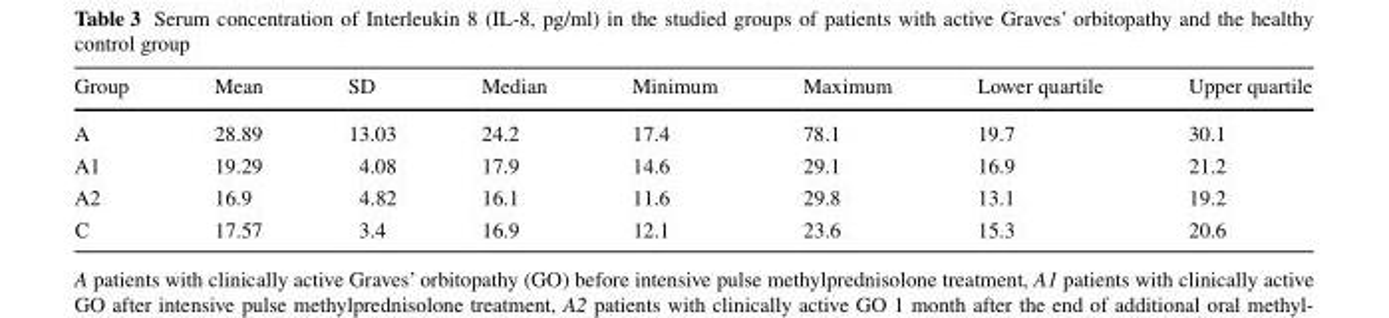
<table><thead><tr><td>Group</td><td>Mean</td><td>SD</td><td>Median</td><td>Minimum</td><td>Maximum</td><td>Lower quartile</td><td>Upper quartile</td></tr></thead><tbody><tr><td>A</td><td>28.89</td><td>13.03</td><td>24.2</td><td>17.4</td><td>78.1</td><td>19.7</td><td>30.1</td></tr><tr><td>A1</td><td>19.29</td><td>4.08</td><td>17.9</td><td>14.6</td><td>29.1</td><td>16.9</td><td>21.2</td></tr><tr><td>A2</td><td>16.9</td><td>4.82</td><td>16.1</td><td>11.6</td><td>29.8</td><td>13.1</td><td>19.2</td></tr><tr><td>C</td><td>17.57</td><td>3.4</td><td>16.9</td><td>12.1</td><td>23.6</td><td>15.3</td><td>20.6</td></tr></tbody></table>